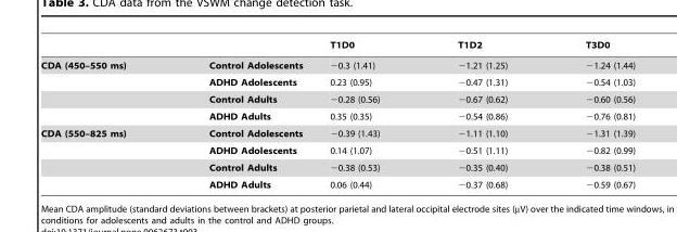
<table><thead><tr><td></td><td></td><td>T1D0</td><td>T1D2</td><td>T3D0</td></tr></thead><tbody><tr><td rowspan="4">CDA (450–550 ms)</td><td>Control Adolescents</td><td>−0.3 (1.41)</td><td>−1.21 (1.25)</td><td>−1.24 (1.44)</td></tr><tr><td>ADHD Adolescents</td><td>0.23 (0.95)</td><td>−0.47 (1.31)</td><td>−0.54 (1.03)</td></tr><tr><td>Control Adults</td><td>−0.28 (0.56)</td><td>−0.67 (0.62)</td><td>−0.60 (0.56)</td></tr><tr><td>ADHD Adults</td><td>0.35 (0.35)</td><td>−0.54 (0.86)</td><td>−0.76 (0.81)</td></tr><tr><td rowspan="4">CDA (550–825 ms)</td><td>Control Adolescents</td><td>−0.39 (1.43)</td><td>−1.11 (1.10)</td><td>−1.31 (1.39)</td></tr><tr><td>ADHD Adolescents</td><td>0.14 (1.07)</td><td>−0.51 (1.11)</td><td>−0.82 (0.99)</td></tr><tr><td>Control Adults</td><td>−0.38 (0.53)</td><td>−0.35 (0.40)</td><td>−0.38 (0.51)</td></tr><tr><td>ADHD Adults</td><td>0.06 (0.44)</td><td>−0.37 (0.68)</td><td>−0.59 (0.67)</td></tr></tbody></table>